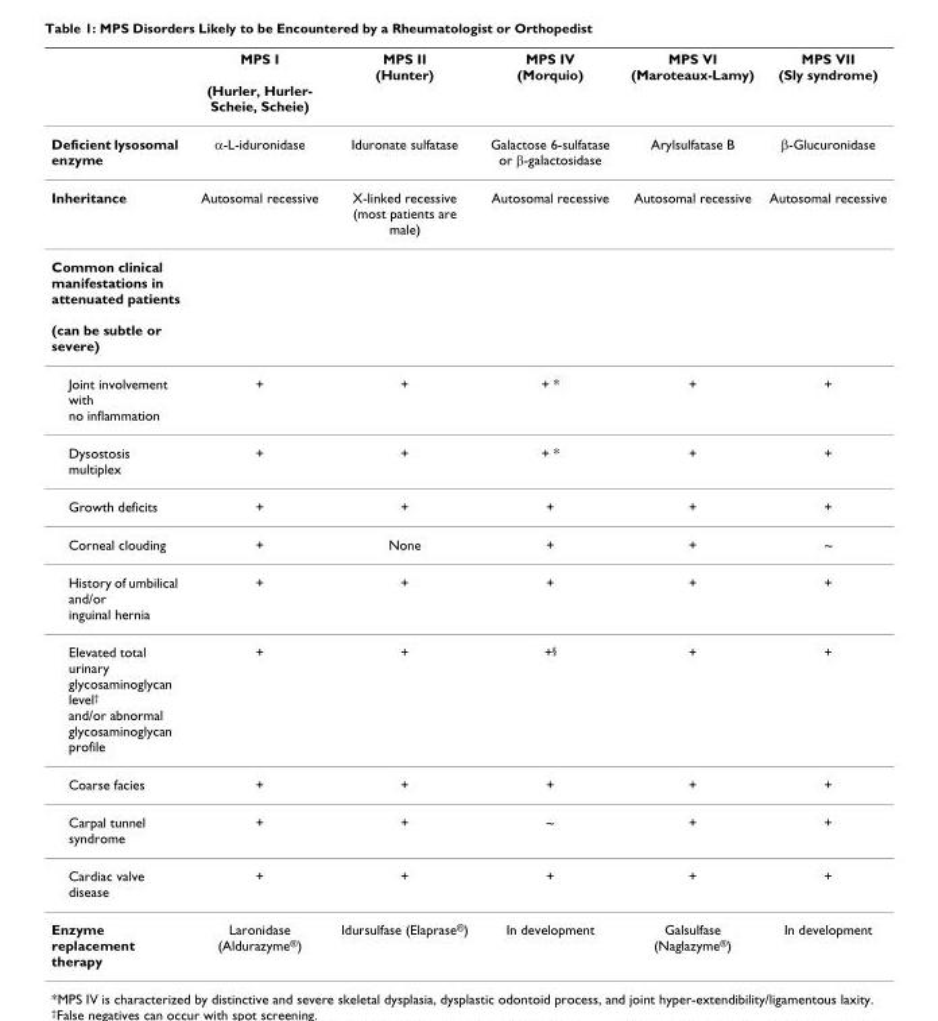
<table><thead><tr><td></td><td>MPS I (Hurler, Hurler- Scheie, Scheie)</td><td>MPS II (Hunter)</td><td>MPS IV (Morquio)</td><td>MPS VI (Maroteaux-Lamy)</td><td>MPS VII (Sly syndrome)</td></tr></thead><tbody><tr><td>Deficient lysosomal enzyme</td><td>α-L-iduronidase</td><td>Iduronate sulfatase</td><td>Galactose 6-sulfatase or β-galactosidase</td><td>Arylsulfatase B</td><td>β-Glucuronidase</td></tr><tr><td>Inheritance</td><td>Autosomal recessive</td><td>X-linked recessive (most patients are male)</td><td>Autosomal recessive</td><td>Autosomal recessive</td><td>Autosomal recessive</td></tr><tr><td colspan="6">Common clinical manifestations in attenuated patients (can be subtle or severe)</td></tr><tr><td>Joint involvement with no inflammation</td><td>+</td><td>+</td><td>+ *</td><td>+</td><td>+</td></tr><tr><td>Dysostosis multiplex</td><td>+</td><td>+</td><td>+ *</td><td>+</td><td>+</td></tr><tr><td>Growth deficits</td><td>+</td><td>+</td><td>+</td><td>+</td><td>+</td></tr><tr><td>Corneal clouding</td><td>+</td><td>None</td><td>+</td><td>+</td><td>~</td></tr><tr><td>History of umbilical and/or inguinal hernia</td><td>+</td><td>+</td><td>+</td><td>+</td><td>+</td></tr><tr><td>Elevated total urinary glycosaminoglycan level<sup>†</sup> and/or abnormal glycosaminoglycan profile</td><td>+</td><td>+</td><td>+<sup>§</sup></td><td>+</td><td>+</td></tr><tr><td>Coarse facies</td><td>+</td><td>+</td><td>+</td><td>+</td><td>+</td></tr><tr><td>Carpal tunnel syndrome</td><td>+</td><td>+</td><td>~</td><td>+</td><td>+</td></tr><tr><td>Cardiac valve disease</td><td>+</td><td>+</td><td>+</td><td>+</td><td>+</td></tr><tr><td>Enzyme replacement therapy</td><td>Laronidase (Aldurazyme<sup>®</sup>)</td><td>Idursulfase (Elaprase<sup>®</sup>)</td><td>In development</td><td>Galsulfase (Naglazyme<sup>®</sup>)</td><td>In development</td></tr></tbody></table>